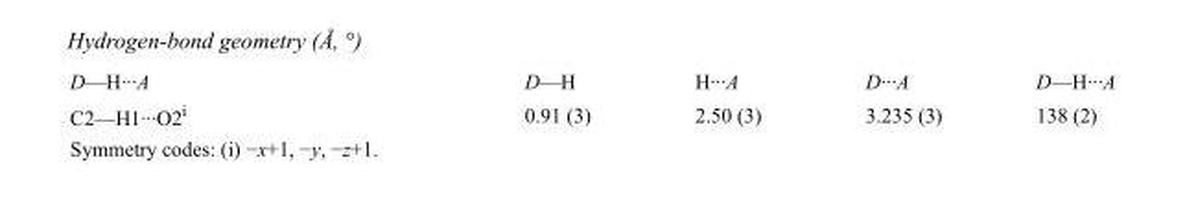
<table><tbody><tr><td>D—H···A</td><td>D—H</td><td>H···A</td><td>D···A</td><td>D—H···A</td></tr><tr><td>C2—H1···O2<sup>i</sup></td><td>0.91 (3)</td><td>2.50 (3)</td><td>3.235 (3)</td><td>138 (2)</td></tr></tbody></table>